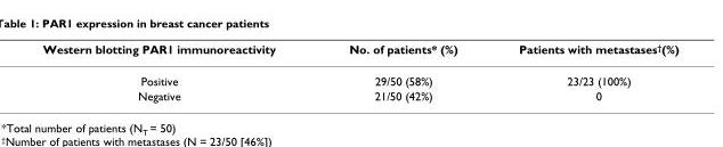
<table><thead><tr><td>Western blotting PAR1 immunoreactivity</td><td>No. of patients* (%)</td><td>Patients with metastases†(%)</td></tr></thead><tbody><tr><td>Positive</td><td>29/50 (58%)</td><td>23/23 (100%)</td></tr><tr><td>Negative</td><td>21/50 (42%)</td><td>0</td></tr></tbody></table>